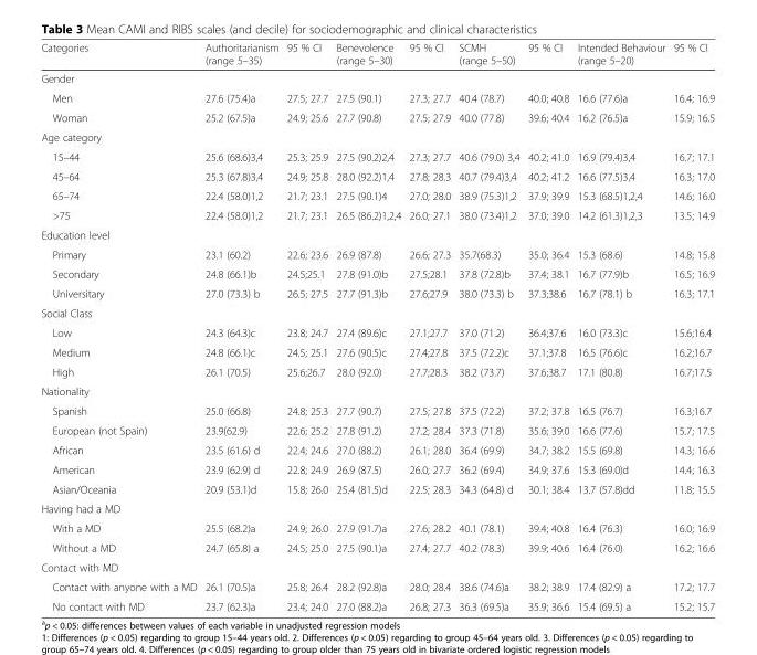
<table><thead><tr><td>Categories</td><td>Authoritarianism (range 5–35)</td><td>95 % CI</td><td>Benevolence (range 5–30)</td><td>95 % CI</td><td>SCMH (range 5–50)</td><td>95 % CI</td><td>Intended Behaviour (range 5–20)</td><td>95 % CI</td></tr></thead><tbody><tr><td colspan="9">Gender</td></tr><tr><td>Men</td><td>27.6 (75.4)a</td><td>27.5; 27.7</td><td>27.5 (90.1)</td><td>27.3; 27.7</td><td>40.4 (78.7)</td><td>40.0; 40.8</td><td>16.6 (77.6)a</td><td>16.4; 16.9</td></tr><tr><td>Woman</td><td>25.2 (67.5)a</td><td>24.9; 25.6</td><td>27.7 (90.8)</td><td>27.5; 27.9</td><td>40.0 (77.8)</td><td>39.6; 40.4</td><td>16.2 (76.5)a</td><td>15.9; 16.5</td></tr><tr><td colspan="9">Age category</td></tr><tr><td>15–44</td><td>25.6 (68.6)3,4</td><td>25.3; 25.9</td><td>27.5 (90.2)2,4</td><td>27.3; 27.7</td><td>40.6 (79.0) 3,4</td><td>40.2; 41.0</td><td>16.9 (79.4)3,4</td><td>16.7; 17.1</td></tr><tr><td>45–64</td><td>25.3 (67.8)3,4</td><td>24.9; 25.8</td><td>28.0 (92.2)1,4</td><td>27.8; 28.3</td><td>40.7 (79.4)3,4</td><td>40.2; 41.2</td><td>16.6 (77.5)3,4</td><td>16.3; 17.0</td></tr><tr><td>65–74</td><td>22.4 (58.0)1,2</td><td>21.7; 23.1</td><td>27.5 (90.1)4</td><td>27.0; 28.0</td><td>38.9 (75.3)1,2</td><td>37.9; 39.9</td><td>15.3 (68.5)1,2,4</td><td>14.6; 16.0</td></tr><tr><td>&gt;75</td><td>22.4 (58.0)1,2</td><td>21.7; 23.1</td><td>26.5 (86.2)1,2,4</td><td>26.0; 27.1</td><td>38.0 (73.4)1,2</td><td>37.0; 39.0</td><td>14.2 (61.3)1,2,3</td><td>13.5; 14.9</td></tr><tr><td colspan="9">Education level</td></tr><tr><td>Primary</td><td>23.1 (60.2)</td><td>22.6; 23.6</td><td>26.9 (87.8)</td><td>26.6; 27.3</td><td>35.7(68.3)</td><td>35.0; 36.4</td><td>15.3 (68.6)</td><td>14.8; 15.8</td></tr><tr><td>Secondary</td><td>24.8 (66.1)b</td><td>24.5;25.1</td><td>27.8 (91.0)b</td><td>27.5;28.1</td><td>37.8 (72.8)b</td><td>37.4; 38.1</td><td>16.7 (77.9)b</td><td>16.5; 16.9</td></tr><tr><td>Universitary</td><td>27.0 (73.3) b</td><td>26.5; 27.5</td><td>27.7 (91.3)b</td><td>27.6;27.9</td><td>38.0 (73.3) b</td><td>37.3;38.6</td><td>16.7 (78.1) b</td><td>16.3; 17.1</td></tr><tr><td colspan="9">Social Class</td></tr><tr><td>Low</td><td>24.3 (64.3)c</td><td>23.8; 24.7</td><td>27.4 (89.6)c</td><td>27.1;27.7</td><td>37.0 (71.2)</td><td>36.4;37.6</td><td>16.0 (73.3)c</td><td>15.6;16.4</td></tr><tr><td>Medium</td><td>24.8 (66.1)c</td><td>24.5; 25.1</td><td>27.6 (90.5)c</td><td>27.4;27.8</td><td>37.5 (72.2)c</td><td>37.1;37.8</td><td>16.5 (76.6)c</td><td>16.2;16.7</td></tr><tr><td>High</td><td>26.1 (70.5)</td><td>25.6;26.7</td><td>28.0 (92.0)</td><td>27.7;28.3</td><td>38.2 (73.7)</td><td>37.6;38.7</td><td>17.1 (80.8)</td><td>16.7;17.5</td></tr><tr><td colspan="9">Nationality</td></tr><tr><td>Spanish</td><td>25.0 (66.8)</td><td>24.8; 25.3</td><td>27.7 (90.7)</td><td>27.5; 27.8</td><td>37.5 (72.2)</td><td>37.2; 37.8</td><td>16.5 (76.7)</td><td>16.3;16.7</td></tr><tr><td>European (not Spain)</td><td>23.9(62.9)</td><td>22.6; 25.2</td><td>27.8 (91.2)</td><td>27.2; 28.4</td><td>37.3 (71.8)</td><td>35.6; 39.0</td><td>16.6 (77.6)</td><td>15.7; 17.5</td></tr><tr><td>African</td><td>23.5 (61.6) d</td><td>22.4; 24.6</td><td>27.0 (88.2)</td><td>26.1; 28.0</td><td>36.4 (69.9)</td><td>34.7; 38.2</td><td>15.5 (69.8)</td><td>14.3; 16.6</td></tr><tr><td>American</td><td>23.9 (62.9) d</td><td>22.8; 24.9</td><td>26.9 (87.5)</td><td>26.0; 27.7</td><td>36.2 (69.4)</td><td>34.9; 37.6</td><td>15.3 (69.0)d</td><td>14.4; 16.3</td></tr><tr><td>Asian/Oceania</td><td>20.9 (53.1)d</td><td>15.8; 26.0</td><td>25.4 (81.5)d</td><td>22.5; 28.3</td><td>34.3 (64.8) d</td><td>30.1; 38.4</td><td>13.7 (57.8)dd</td><td>11.8; 15.5</td></tr><tr><td colspan="9">Having had a MD</td></tr><tr><td>With a MD</td><td>25.5 (68.2)a</td><td>24.9; 26.0</td><td>27.9 (91.7)a</td><td>27.6; 28.2</td><td>40.1 (78.1)</td><td>39.4; 40.8</td><td>16.4 (76.3)</td><td>16.0; 16.9</td></tr><tr><td>Without a MD</td><td>24.7 (65.8) a</td><td>24.5; 25.0</td><td>27.5 (90.1)a</td><td>27.4; 27.7</td><td>40.2 (78.3)</td><td>39.9; 40.6</td><td>16.4 (76.0)</td><td>16.2; 16.6</td></tr><tr><td colspan="9">Contact with MD</td></tr><tr><td>Contact with anyone with a MD</td><td>26.1 (70.5)a</td><td>25.8; 26.4</td><td>28.2 (92.8)a</td><td>28.0; 28.4</td><td>38.6 (74.6)a</td><td>38.2; 38.9</td><td>17.4 (82.9) a</td><td>17.2; 17.7</td></tr><tr><td>No contact with MD</td><td>23.7 (62.3)a</td><td>23.4; 24.0</td><td>27.0 (88.2)a</td><td>26.8; 27.3</td><td>36.3 (69.5)a</td><td>35.9; 36.6</td><td>15.4 (69.5) a</td><td>15.2; 15.7</td></tr></tbody></table>